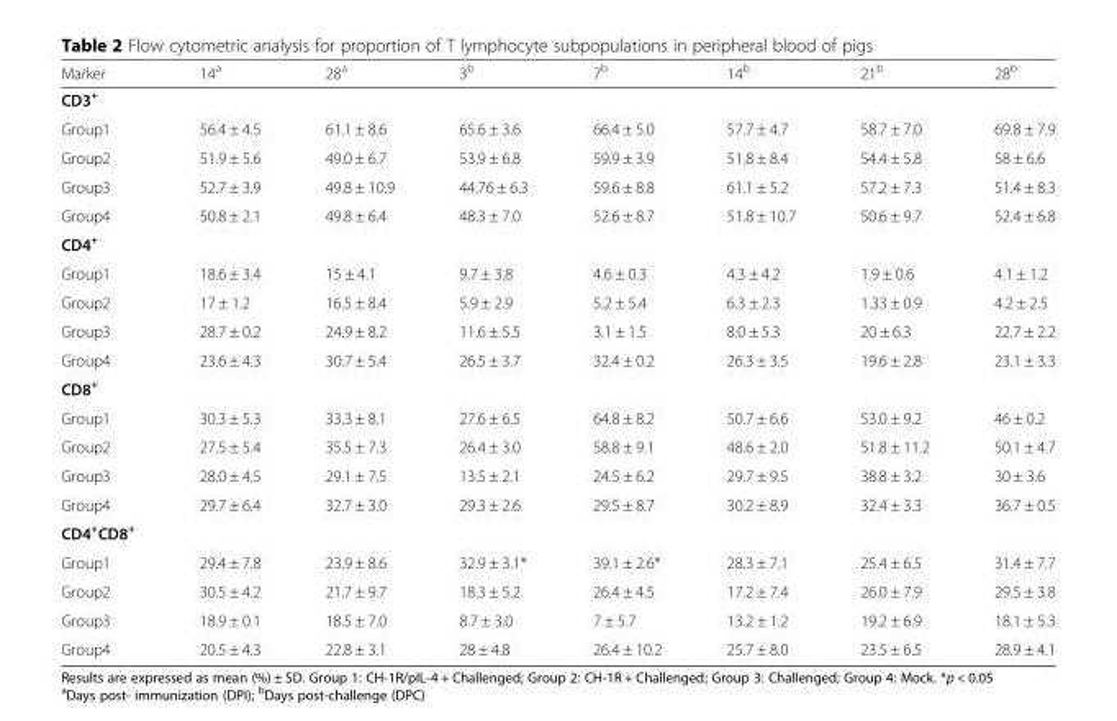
<table><thead><tr><td>Marker</td><td>14<sup>a</sup></td><td>28<sup>a</sup></td><td>3<sup>b</sup></td><td>7<sup>b</sup></td><td>14<sup>b</sup></td><td>21<sup>b</sup></td><td>28<sup>b</sup></td></tr></thead><tbody><tr><td colspan="8">CD3<sup>+</sup></td></tr><tr><td>Group1</td><td>56.4 ± 4.5</td><td>61.1 ± 8.6</td><td>65.6 ± 3.6</td><td>66.4 ± 5.0</td><td>57.7 ± 4.7</td><td>58.7 ± 7.0</td><td>69.8 ± 7.9</td></tr><tr><td>Group2</td><td>51.9 ± 5.6</td><td>49.0 ± 6.7</td><td>53.9 ± 6.8</td><td>59.9 ± 3.9</td><td>51.8 ± 8.4</td><td>54.4 ± 5.8</td><td>58 ± 6.6</td></tr><tr><td>Group3</td><td>52.7 ± 3.9</td><td>49.8 ± 10.9</td><td>44.76 ± 6.3</td><td>59.6 ± 8.8</td><td>61.1 ± 5.2</td><td>57.2 ± 7.3</td><td>51.4 ± 8.3</td></tr><tr><td>Group4</td><td>50.8 ± 2.1</td><td>49.8 ± 6.4</td><td>48.3 ± 7.0</td><td>52.6 ± 8.7</td><td>51.8 ± 10.7</td><td>50.6 ± 9.7</td><td>52.4 ± 6.8</td></tr><tr><td colspan="8">CD4<sup>+</sup></td></tr><tr><td>Group1</td><td>18.6 ± 3.4</td><td>15 ± 4.1</td><td>9.7 ± 3.8</td><td>4.6 ± 0.3</td><td>4.3 ± 4.2</td><td>1.9 ± 0.6</td><td>4.1 ± 1.2</td></tr><tr><td>Group2</td><td>17 ± 1.2</td><td>16.5 ± 8.4</td><td>5.9 ± 2.9</td><td>5.2 ± 5.4</td><td>6.3 ± 2.3</td><td>1.33 ± 0.9</td><td>4.2 ± 2.5</td></tr><tr><td>Group3</td><td>28.7 ± 0.2</td><td>24.9 ± 8.2</td><td>11.6 ± 5.5</td><td>3.1 ± 1.5</td><td>8.0 ± 5.3</td><td>20 ± 6.3</td><td>22.7 ± 2.2</td></tr><tr><td>Group4</td><td>23.6 ± 4.3</td><td>30.7 ± 5.4</td><td>26.5 ± 3.7</td><td>32.4 ± 0.2</td><td>26.3 ± 3.5</td><td>19.6 ± 2.8</td><td>23.1 ± 3.3</td></tr><tr><td colspan="8">CD8<sup>+</sup></td></tr><tr><td>Group1</td><td>30.3 ± 5.3</td><td>33.3 ± 8.1</td><td>27.6 ± 6.5</td><td>64.8 ± 8.2</td><td>50.7 ± 6.6</td><td>53.0 ± 9.2</td><td>46 ± 0.2</td></tr><tr><td>Group2</td><td>27.5 ± 5.4</td><td>35.5 ± 7.3</td><td>26.4 ± 3.0</td><td>58.8 ± 9.1</td><td>48.6 ± 2.0</td><td>51.8 ± 11.2</td><td>50.1 ± 4.7</td></tr><tr><td>Group3</td><td>28.0 ± 4.5</td><td>29.1 ± 7.5</td><td>13.5 ± 2.1</td><td>24.5 ± 6.2</td><td>29.7 ± 9.5</td><td>38.8 ± 3.2</td><td>30 ± 3.6</td></tr><tr><td>Group4</td><td>29.7 ± 6.4</td><td>32.7 ± 3.0</td><td>29.3 ± 2.6</td><td>29.5 ± 8.7</td><td>30.2 ± 8.9</td><td>32.4 ± 3.3</td><td>36.7 ± 0.5</td></tr><tr><td colspan="8">CD4<sup>+</sup>CD8<sup>+</sup></td></tr><tr><td>Group1</td><td>29.4 ± 7.8</td><td>23.9 ± 8.6</td><td>32.9 ± 3.1*</td><td>39.1 ± 2.6*</td><td>28.3 ± 7.1</td><td>25.4 ± 6.5</td><td>31.4 ± 7.7</td></tr><tr><td>Group2</td><td>30.5 ± 4.2</td><td>21.7 ± 9.7</td><td>18.3 ± 5.2</td><td>26.4 ± 4.5</td><td>17.2 ± 7.4</td><td>26.0 ± 7.9</td><td>29.5 ± 3.8</td></tr><tr><td>Group3</td><td>18.9 ± 0.1</td><td>18.5 ± 7.0</td><td>8.7 ± 3.0</td><td>7 ± 5.7</td><td>13.2 ± 1.2</td><td>19.2 ± 6.9</td><td>18.1 ± 5.3</td></tr><tr><td>Group4</td><td>20.5 ± 4.3</td><td>22.8 ± 3.1</td><td>28 ± 4.8</td><td>26.4 ± 10.2</td><td>25.7 ± 8.0</td><td>23.5 ± 6.5</td><td>28.9 ± 4.1</td></tr></tbody></table>